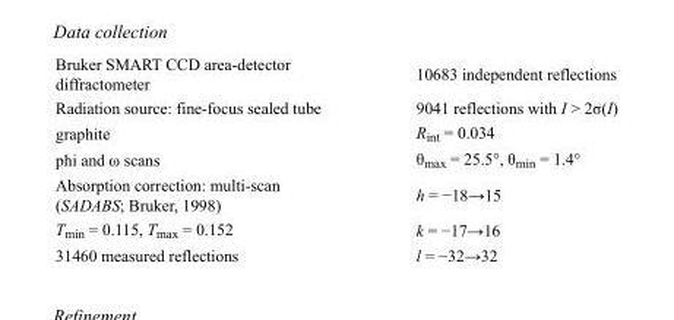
<table><tbody><tr><td>Bruker SMART CCD area-detector diffractometer</td><td>10683 independent reflections</td></tr><tr><td>Radiation source: fine-focus sealed tube</td><td>9041 reflections with I &gt; 2σ(I)</td></tr><tr><td>graphite</td><td>R<sub>int</sub> = 0.034</td></tr><tr><td>phi and ω scans</td><td>θ<sub>max</sub> = 25.5°, θ<sub>min</sub> = 1.4°</td></tr><tr><td>Absorption correction: multi-scan (SADABS; Bruker, 1998)</td><td>h = −18→15</td></tr><tr><td>T<sub>min</sub> = 0.115, T<sub>max</sub> = 0.152</td><td>k = −17→16</td></tr><tr><td>31460 measured reflections</td><td>l = −32→32</td></tr></tbody></table>